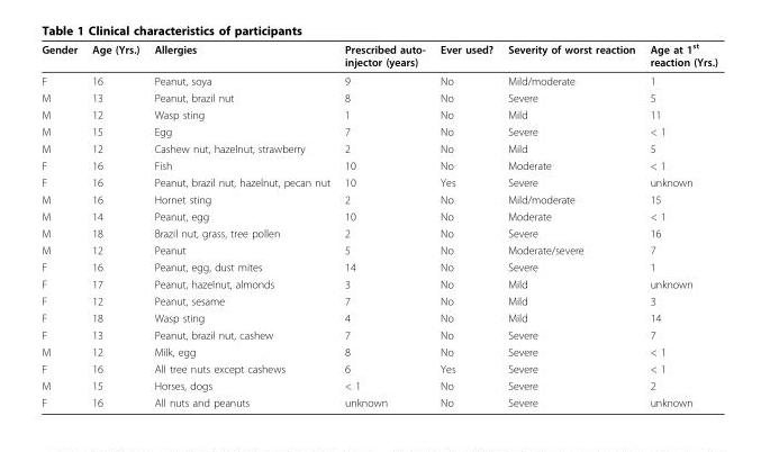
<table><thead><tr><td>Gender</td><td>Age (Yrs.)</td><td>Allergies</td><td>Prescribed auto- injector (years)</td><td>Ever used?</td><td>Severity of worst reaction</td><td>Age at 1<sup>st</sup> reaction (Yrs.)</td></tr></thead><tbody><tr><td>F</td><td>16</td><td>Peanut, soya</td><td>9</td><td>No</td><td>Mild/moderate</td><td>1</td></tr><tr><td>M</td><td>13</td><td>Peanut, brazil nut</td><td>8</td><td>No</td><td>Severe</td><td>5</td></tr><tr><td>M</td><td>12</td><td>Wasp sting</td><td>1</td><td>No</td><td>Mild</td><td>11</td></tr><tr><td>M</td><td>15</td><td>Egg</td><td>7</td><td>No</td><td>Severe</td><td>&lt; 1</td></tr><tr><td>M</td><td>12</td><td>Cashew nut, hazelnut, strawberry</td><td>2</td><td>No</td><td>Mild</td><td>5</td></tr><tr><td>F</td><td>16</td><td>Fish</td><td>10</td><td>No</td><td>Moderate</td><td>&lt; 1</td></tr><tr><td>F</td><td>16</td><td>Peanut, brazil nut, hazelnut, pecan nut</td><td>10</td><td>Yes</td><td>Severe</td><td>unknown</td></tr><tr><td>M</td><td>16</td><td>Hornet sting</td><td>2</td><td>No</td><td>Mild/moderate</td><td>15</td></tr><tr><td>M</td><td>14</td><td>Peanut, egg</td><td>10</td><td>No</td><td>Moderate</td><td>&lt; 1</td></tr><tr><td>M</td><td>18</td><td>Brazil nut, grass, tree pollen</td><td>2</td><td>No</td><td>Severe</td><td>16</td></tr><tr><td>M</td><td>12</td><td>Peanut</td><td>5</td><td>No</td><td>Moderate/severe</td><td>7</td></tr><tr><td>F</td><td>16</td><td>Peanut, egg, dust mites</td><td>14</td><td>No</td><td>Severe</td><td>1</td></tr><tr><td>F</td><td>17</td><td>Peanut, hazelnut, almonds</td><td>3</td><td>No</td><td>Mild</td><td>unknown</td></tr><tr><td>F</td><td>12</td><td>Peanut, sesame</td><td>7</td><td>No</td><td>Mild</td><td>3</td></tr><tr><td>F</td><td>18</td><td>Wasp sting</td><td>4</td><td>No</td><td>Mild</td><td>14</td></tr><tr><td>F</td><td>13</td><td>Peanut, brazil nut, cashew</td><td>7</td><td>No</td><td>Severe</td><td>7</td></tr><tr><td>M</td><td>12</td><td>Milk, egg</td><td>8</td><td>No</td><td>Severe</td><td>&lt; 1</td></tr><tr><td>F</td><td>16</td><td>All tree nuts except cashews</td><td>6</td><td>Yes</td><td>Severe</td><td>&lt; 1</td></tr><tr><td>M</td><td>15</td><td>Horses, dogs</td><td>&lt; 1</td><td>No</td><td>Severe</td><td>2</td></tr><tr><td>F</td><td>16</td><td>All nuts and peanuts</td><td>unknown</td><td>No</td><td>Severe</td><td>unknown</td></tr></tbody></table>